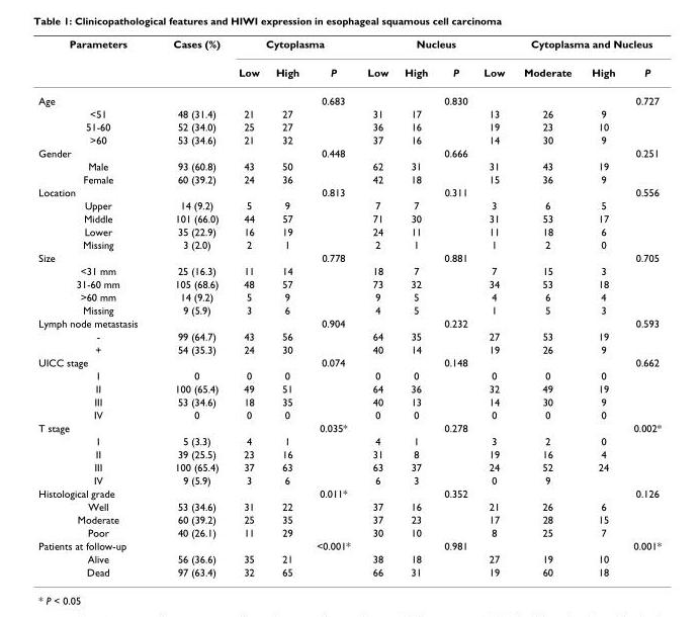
<table><thead><tr><td rowspan="2">Parameters</td><td rowspan="2">Cases (%)</td><td colspan="3">Cytoplasma</td><td colspan="4">Nucleus</td><td colspan="3">Cytoplasma and Nucleus</td></tr><tr><td>Low</td><td>High</td><td>P</td><td>Low</td><td>High</td><td>P</td><td>Low</td><td>Moderate</td><td>High</td><td>P</td></tr></thead><tbody><tr><td>Age</td><td></td><td></td><td></td><td>0.683</td><td></td><td></td><td>0.830</td><td></td><td></td><td></td><td>0.727</td></tr><tr><td>&lt;51</td><td>48 (31.4)</td><td>21</td><td>27</td><td></td><td>31</td><td>17</td><td></td><td>13</td><td>26</td><td>9</td><td></td></tr><tr><td>51-60</td><td>52 (34.0)</td><td>25</td><td>27</td><td></td><td>36</td><td>16</td><td></td><td>19</td><td>23</td><td>10</td><td></td></tr><tr><td>&gt;60</td><td>53 (34.6)</td><td>21</td><td>32</td><td></td><td>37</td><td>16</td><td></td><td>14</td><td>30</td><td>9</td><td></td></tr><tr><td>Gender</td><td></td><td></td><td></td><td>0.448</td><td></td><td></td><td>0.666</td><td></td><td></td><td></td><td>0.251</td></tr><tr><td>Male</td><td>93 (60.8)</td><td>43</td><td>50</td><td></td><td>62</td><td>31</td><td></td><td>31</td><td>43</td><td>19</td><td></td></tr><tr><td>Female</td><td>60 (39.2)</td><td>24</td><td>36</td><td></td><td>42</td><td>18</td><td></td><td>15</td><td>36</td><td>9</td><td></td></tr><tr><td>Location</td><td></td><td></td><td></td><td>0.813</td><td></td><td></td><td>0.311</td><td></td><td></td><td></td><td>0.556</td></tr><tr><td>Upper</td><td>14 (9.2)</td><td>5</td><td>9</td><td></td><td>7</td><td>7</td><td></td><td>3</td><td>6</td><td>5</td><td></td></tr><tr><td>Middle</td><td>101 (66.0)</td><td>44</td><td>57</td><td></td><td>71</td><td>30</td><td></td><td>31</td><td>53</td><td>17</td><td></td></tr><tr><td>Lower</td><td>35 (22.9)</td><td>16</td><td>19</td><td></td><td>24</td><td>11</td><td></td><td>11</td><td>18</td><td>6</td><td></td></tr><tr><td>Missing</td><td>3 (2.0)</td><td>2</td><td>1</td><td></td><td>2</td><td>1</td><td></td><td>1</td><td>2</td><td>0</td><td></td></tr><tr><td>Size</td><td></td><td></td><td></td><td>0.778</td><td></td><td></td><td>0.881</td><td></td><td></td><td></td><td>0.705</td></tr><tr><td>&lt;31 mm</td><td>25 (16.3)</td><td>11</td><td>14</td><td></td><td>18</td><td>7</td><td></td><td>7</td><td>15</td><td>3</td><td></td></tr><tr><td>31-60 mm</td><td>105 (68.6)</td><td>48</td><td>57</td><td></td><td>73</td><td>32</td><td></td><td>34</td><td>53</td><td>18</td><td></td></tr><tr><td>&gt;60 mm</td><td>14 (9.2)</td><td>5</td><td>9</td><td></td><td>9</td><td>5</td><td></td><td>4</td><td>6</td><td>4</td><td></td></tr><tr><td>Missing</td><td>9 (5.9)</td><td>3</td><td>6</td><td></td><td>4</td><td>5</td><td></td><td>1</td><td>5</td><td>3</td><td></td></tr><tr><td>Lymph node metastasis</td><td></td><td></td><td></td><td>0.904</td><td></td><td></td><td>0.232</td><td></td><td></td><td></td><td>0.593</td></tr><tr><td>-</td><td>99 (64.7)</td><td>43</td><td>56</td><td></td><td>64</td><td>35</td><td></td><td>27</td><td>53</td><td>19</td><td></td></tr><tr><td>+</td><td>54 (35.3)</td><td>24</td><td>30</td><td></td><td>40</td><td>14</td><td></td><td>19</td><td>26</td><td>9</td><td></td></tr><tr><td>UICC stage</td><td></td><td></td><td></td><td>0.074</td><td></td><td></td><td>0.148</td><td></td><td></td><td></td><td>0.662</td></tr><tr><td>I</td><td>0</td><td>0</td><td>0</td><td></td><td>0</td><td>0</td><td></td><td>0</td><td>0</td><td>0</td><td></td></tr><tr><td>II</td><td>100 (65.4)</td><td>49</td><td>51</td><td></td><td>64</td><td>36</td><td></td><td>32</td><td>49</td><td>19</td><td></td></tr><tr><td>III</td><td>53 (34.6)</td><td>18</td><td>35</td><td></td><td>40</td><td>13</td><td></td><td>14</td><td>30</td><td>9</td><td></td></tr><tr><td>IV</td><td>0</td><td>0</td><td>0</td><td></td><td>0</td><td>0</td><td></td><td>0</td><td>0</td><td>0</td><td></td></tr><tr><td>T stage</td><td></td><td></td><td></td><td>0.035*</td><td></td><td></td><td>0.278</td><td></td><td></td><td></td><td>0.002*</td></tr><tr><td>I</td><td>5 (3.3)</td><td>4</td><td>1</td><td></td><td>4</td><td>1</td><td></td><td>3</td><td>2</td><td>0</td><td></td></tr><tr><td>II</td><td>39 (25.5)</td><td>23</td><td>16</td><td></td><td>31</td><td>8</td><td></td><td>19</td><td>16</td><td>4</td><td></td></tr><tr><td>III</td><td>100 (65.4)</td><td>37</td><td>63</td><td></td><td>63</td><td>37</td><td></td><td>24</td><td>52</td><td>24</td><td></td></tr><tr><td>IV</td><td>9 (5.9)</td><td>3</td><td>6</td><td></td><td>6</td><td>3</td><td></td><td>0</td><td>9</td><td></td><td></td></tr><tr><td>Histological grade</td><td></td><td></td><td></td><td>0.011*</td><td></td><td></td><td>0.352</td><td></td><td></td><td></td><td>0.126</td></tr><tr><td>Well</td><td>53 (34.6)</td><td>31</td><td>22</td><td></td><td>37</td><td>16</td><td></td><td>21</td><td>26</td><td>6</td><td></td></tr><tr><td>Moderate</td><td>60 (39.2)</td><td>25</td><td>35</td><td></td><td>37</td><td>23</td><td></td><td>17</td><td>28</td><td>15</td><td></td></tr><tr><td>Poor</td><td>40 (26.1)</td><td>11</td><td>29</td><td></td><td>30</td><td>10</td><td></td><td>8</td><td>25</td><td>7</td><td></td></tr><tr><td>Patients at follow-up</td><td></td><td></td><td></td><td>&lt;0.001*</td><td></td><td></td><td>0.981</td><td></td><td></td><td></td><td>0.001*</td></tr><tr><td>Alive</td><td>56 (36.6)</td><td>35</td><td>21</td><td></td><td>38</td><td>18</td><td></td><td>27</td><td>19</td><td>10</td><td></td></tr><tr><td>Dead</td><td>97 (63.4)</td><td>32</td><td>65</td><td></td><td>66</td><td>31</td><td></td><td>19</td><td>60</td><td>18</td><td></td></tr></tbody></table>